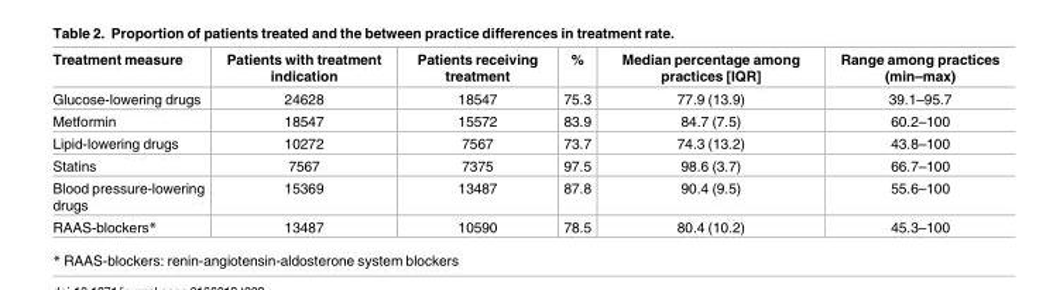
<table><thead><tr><td>Treatment measure</td><td>Patients with treatment indication</td><td>Patients receiving treatment</td><td>%</td><td>Median percentage among practices [IQR]</td><td>Range among practices (min–max)</td></tr></thead><tbody><tr><td>Glucose-lowering drugs</td><td>24628</td><td>18547</td><td>75.3</td><td>77.9 (13.9)</td><td>39.1–95.7</td></tr><tr><td>Metformin</td><td>18547</td><td>15572</td><td>83.9</td><td>84.7 (7.5)</td><td>60.2–100</td></tr><tr><td>Lipid-lowering drugs</td><td>10272</td><td>7567</td><td>73.7</td><td>74.3 (13.2)</td><td>43.8–100</td></tr><tr><td>Statins</td><td>7567</td><td>7375</td><td>97.5</td><td>98.6 (3.7)</td><td>66.7–100</td></tr><tr><td>Blood pressure-lowering drugs</td><td>15369</td><td>13487</td><td>87.8</td><td>90.4 (9.5)</td><td>55.6–100</td></tr><tr><td>RAAS-blockers*</td><td>13487</td><td>10590</td><td>78.5</td><td>80.4 (10.2)</td><td>45.3–100</td></tr></tbody></table>